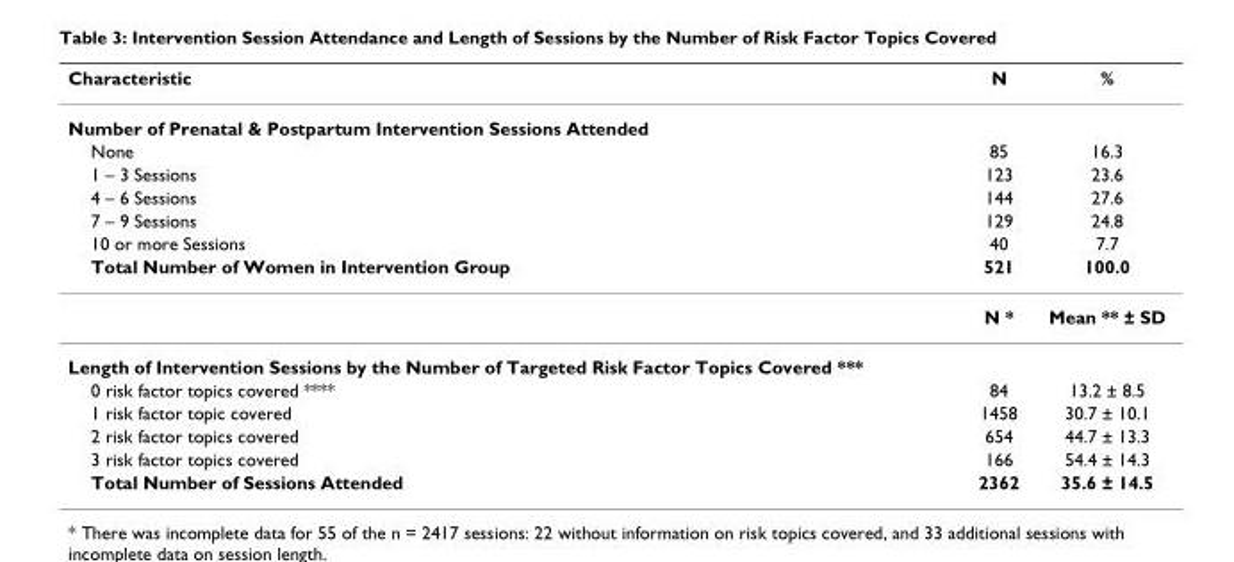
<table><thead><tr><td>Characteristic</td><td>N</td><td>%</td></tr></thead><tbody><tr><td colspan="3">Number of Prenatal &amp; Postpartum Intervention Sessions Attended</td></tr><tr><td>None</td><td>85</td><td>16.3</td></tr><tr><td>1 – 3 Sessions</td><td>123</td><td>23.6</td></tr><tr><td>4 – 6 Sessions</td><td>144</td><td>27.6</td></tr><tr><td>7 – 9 Sessions</td><td>129</td><td>24.8</td></tr><tr><td>10 or more Sessions</td><td>40</td><td>7.7</td></tr><tr><td rowspan="2">Total Number of Women in Intervention Group</td><td>521</td><td>100.0</td></tr><tr><td>N *</td><td>Mean ** ± SD</td></tr><tr><td colspan="3">Length of Intervention Sessions by the Number of Targeted Risk Factor Topics Covered ***</td></tr><tr><td>0 risk factor topics covered ****</td><td>84</td><td>13.2 ± 8.5</td></tr><tr><td>1 risk factor topic covered</td><td>1458</td><td>30.7 ± 10.1</td></tr><tr><td>2 risk factor topics covered</td><td>654</td><td>44.7 ± 13.3</td></tr><tr><td>3 risk factor topics covered</td><td>166</td><td>54.4 ± 14.3</td></tr><tr><td>Total Number of Sessions Attended</td><td>2362</td><td>35.6 ± 14.5</td></tr></tbody></table>